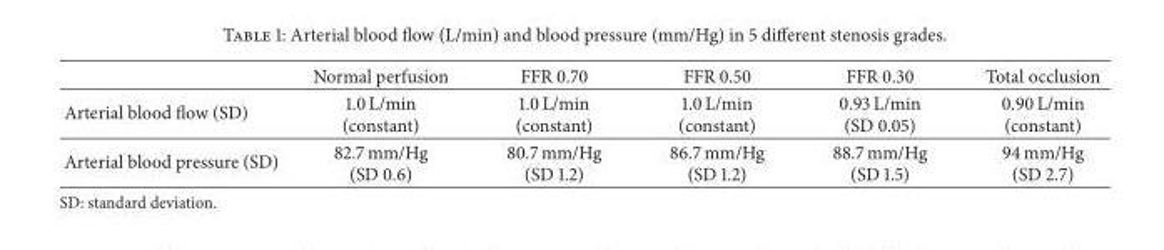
<table><thead><tr><td></td><td>Normal perfusion</td><td>FFR 0.70</td><td>FFR 0.50</td><td>FFR 0.30</td><td>Total occlusion</td></tr></thead><tbody><tr><td>Arterial blood flow (SD)</td><td>1.0 L/min (constant)</td><td>1.0 L/min (constant)</td><td>1.0 L/min (constant)</td><td>0.93 L/min (SD 0.05)</td><td>0.90 L/min (constant)</td></tr><tr><td>Arterial blood pressure (SD)</td><td>82.7 mm/Hg (SD 0.6)</td><td>80.7 mm/Hg (SD 1.2)</td><td>86.7 mm/Hg (SD 1.2)</td><td>88.7 mm/Hg (SD 1.5)</td><td>94 mm/Hg (SD 2.7)</td></tr></tbody></table>